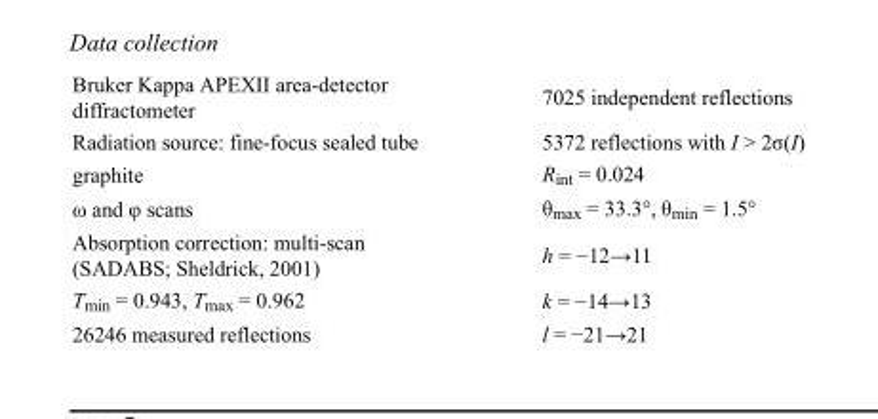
<table><tbody><tr><td>Bruker Kappa APEXII area-detector diffractometer</td><td>7025 independent reflections</td></tr><tr><td>Radiation source: fine-focus sealed tube</td><td>5372 reflections with I &gt; 2σ(I)</td></tr><tr><td>graphite</td><td>R<sub>int</sub> = 0.024</td></tr><tr><td>ω and φ scans</td><td>θ<sub>max</sub> = 33.3°, θ<sub>min</sub> = 1.5°</td></tr><tr><td>Absorption correction: multi-scan (SADABS; Sheldrick, 2001)</td><td>h = −12→11</td></tr><tr><td>T<sub>min</sub> = 0.943, T<sub>max</sub> = 0.962</td><td>k = −14→13</td></tr><tr><td>26246 measured reflections</td><td>l = −21→21</td></tr></tbody></table>